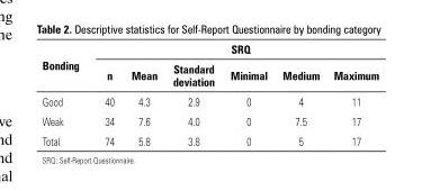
<table><thead><tr><td rowspan="2">Bonding</td><td colspan="6">SRQ</td></tr><tr><td>n</td><td>Mean</td><td>Standard deviation</td><td>Minimal</td><td>Medium</td><td>Maximum</td></tr></thead><tbody><tr><td>Good</td><td>40</td><td>4.3</td><td>2.9</td><td>0</td><td>4</td><td>11</td></tr><tr><td>Weak</td><td>34</td><td>7.6</td><td>4.0</td><td>0</td><td>7.5</td><td>17</td></tr><tr><td>Total</td><td>74</td><td>5.8</td><td>3.8</td><td>0</td><td>5</td><td>17</td></tr></tbody></table>